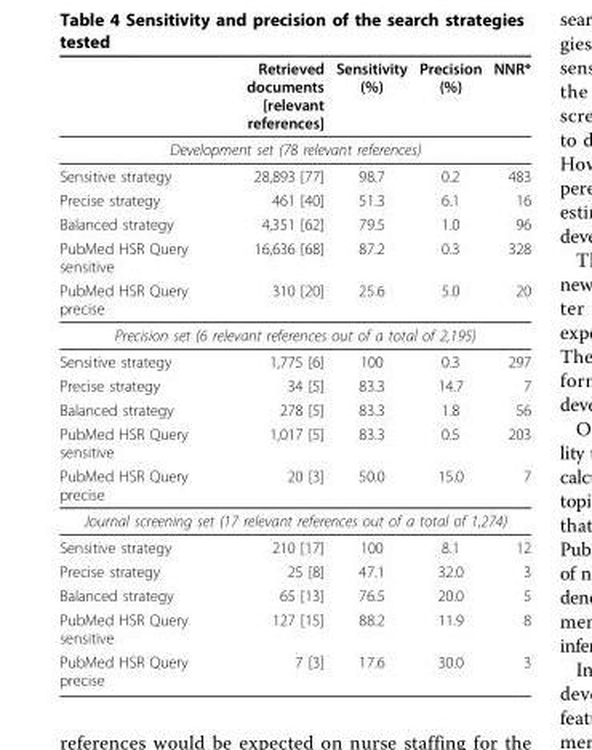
<table><thead><tr><td></td><td>Retrieved documents [relevant references]</td><td>Sensitivity (%)</td><td>Precision (%)</td><td>NNR*</td></tr></thead><tbody><tr><td colspan="5">Development set (78 relevant references)</td></tr><tr><td>Sensitive strategy</td><td>28,893 [77]</td><td>98.7</td><td>0.2</td><td>483</td></tr><tr><td>Precise strategy</td><td>461 [40]</td><td>51.3</td><td>6.1</td><td>16</td></tr><tr><td>Balanced strategy</td><td>4,351 [62]</td><td>79.5</td><td>1.0</td><td>96</td></tr><tr><td>PubMed HSR Query sensitive</td><td>16,636 [68]</td><td>87.2</td><td>0.3</td><td>328</td></tr><tr><td>PubMed HSR Query precise</td><td>310 [20]</td><td>25.6</td><td>5.0</td><td>20</td></tr><tr><td colspan="5">Precision set (6 relevant references out of a total of 2,195)</td></tr><tr><td>Sensitive strategy</td><td>1,775 [6]</td><td>100</td><td>0.3</td><td>297</td></tr><tr><td>Precise strategy</td><td>34 [5]</td><td>83.3</td><td>14.7</td><td>7</td></tr><tr><td>Balanced strategy</td><td>278 [5]</td><td>83.3</td><td>1.8</td><td>56</td></tr><tr><td>PubMed HSR Query sensitive</td><td>1,017 [5]</td><td>83.3</td><td>0.5</td><td>203</td></tr><tr><td>PubMed HSR Query precise</td><td>20 [3]</td><td>50.0</td><td>15.0</td><td>7</td></tr><tr><td colspan="5">Journal screening set (17 relevant references out of a total of 1,274)</td></tr><tr><td>Sensitive strategy</td><td>210 [17]</td><td>100</td><td>8.1</td><td>12</td></tr><tr><td>Precise strategy</td><td>25 [8]</td><td>47.1</td><td>32.0</td><td>3</td></tr><tr><td>Balanced strategy</td><td>65 [13]</td><td>76.5</td><td>20.0</td><td>5</td></tr><tr><td>PubMed HSR Query sensitive</td><td>127 [15]</td><td>88.2</td><td>11.9</td><td>8</td></tr><tr><td>PubMed HSR Query precise</td><td>7 [3]</td><td>17.6</td><td>30.0</td><td>3</td></tr></tbody></table>